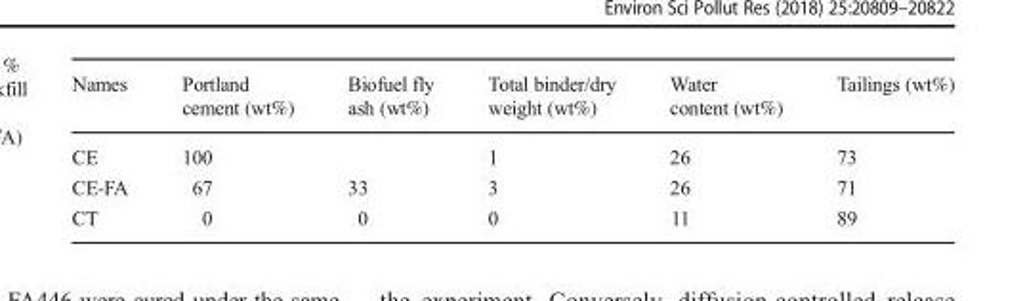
<table><thead><tr><td>Names</td><td>Portland cement (wt%)</td><td>Biofuel fly ash (wt%)</td><td>Total binder/dry weight (wt%)</td><td>Water content (wt%)</td><td>Tailings (wt%)</td></tr></thead><tbody><tr><td>CE</td><td>100</td><td></td><td>1</td><td>26</td><td>73</td></tr><tr><td>CE-FA</td><td>67</td><td>33</td><td>3</td><td>26</td><td>71</td></tr><tr><td>CT</td><td>0</td><td>0</td><td>0</td><td>11</td><td>89</td></tr></tbody></table>